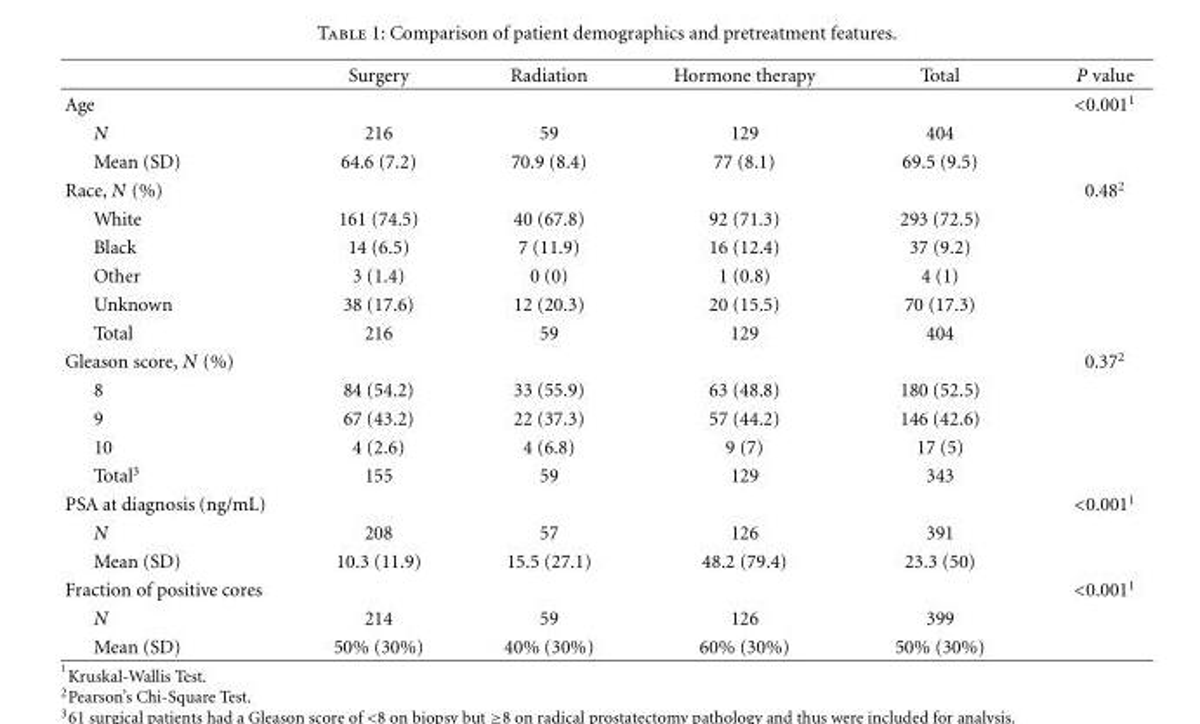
<table><thead><tr><td></td><td>Surgery</td><td>Radiation</td><td>Hormone therapy</td><td>Total</td><td>P value</td></tr></thead><tbody><tr><td>Age</td><td></td><td></td><td></td><td></td><td>&lt;0.001<sup>1</sup></td></tr><tr><td>N</td><td>216</td><td>59</td><td>129</td><td>404</td><td></td></tr><tr><td>Mean (SD)</td><td>64.6 (7.2)</td><td>70.9 (8.4)</td><td>77 (8.1)</td><td>69.5 (9.5)</td><td></td></tr><tr><td>Race, N (%)</td><td></td><td></td><td></td><td></td><td>0.48<sup>2</sup></td></tr><tr><td>White</td><td>161 (74.5)</td><td>40 (67.8)</td><td>92 (71.3)</td><td>293 (72.5)</td><td></td></tr><tr><td>Black</td><td>14 (6.5)</td><td>7 (11.9)</td><td>16 (12.4)</td><td>37 (9.2)</td><td></td></tr><tr><td>Other</td><td>3 (1.4)</td><td>0 (0)</td><td>1 (0.8)</td><td>4 (1)</td><td></td></tr><tr><td>Unknown</td><td>38 (17.6)</td><td>12 (20.3)</td><td>20 (15.5)</td><td>70 (17.3)</td><td></td></tr><tr><td>Total</td><td>216</td><td>59</td><td>129</td><td>404</td><td></td></tr><tr><td>Gleason score, N (%)</td><td></td><td></td><td></td><td></td><td>0.37<sup>2</sup></td></tr><tr><td>8</td><td>84 (54.2)</td><td>33 (55.9)</td><td>63 (48.8)</td><td>180 (52.5)</td><td></td></tr><tr><td>9</td><td>67 (43.2)</td><td>22 (37.3)</td><td>57 (44.2)</td><td>146 (42.6)</td><td></td></tr><tr><td>10</td><td>4 (2.6)</td><td>4 (6.8)</td><td>9 (7)</td><td>17 (5)</td><td></td></tr><tr><td>Total<sup>3</sup></td><td>155</td><td>59</td><td>129</td><td>343</td><td></td></tr><tr><td>PSA at diagnosis (ng/mL)</td><td></td><td></td><td></td><td></td><td>&lt;0.001<sup>1</sup></td></tr><tr><td>N</td><td>208</td><td>57</td><td>126</td><td>391</td><td></td></tr><tr><td>Mean (SD)</td><td>10.3 (11.9)</td><td>15.5 (27.1)</td><td>48.2 (79.4)</td><td>23.3 (50)</td><td></td></tr><tr><td>Fraction of positive cores</td><td></td><td></td><td></td><td></td><td>&lt;0.001<sup>1</sup></td></tr><tr><td>N</td><td>214</td><td>59</td><td>126</td><td>399</td><td></td></tr><tr><td>Mean (SD)</td><td>50% (30%)</td><td>40% (30%)</td><td>60% (30%)</td><td>50% (30%)</td><td></td></tr></tbody></table>